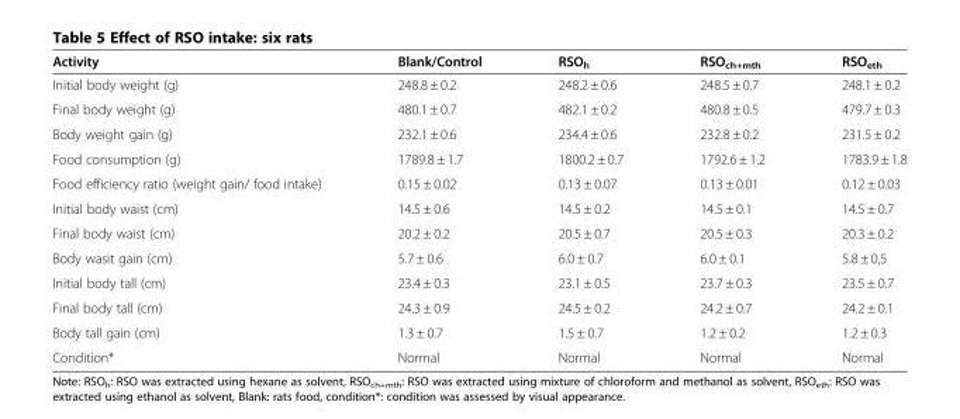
<table><thead><tr><td>Activity</td><td>Blank/Control</td><td>RSO<sub>h</sub></td><td>RSO<sub>ch+mth</sub></td><td>RSO<sub>eth</sub></td></tr></thead><tbody><tr><td>Initial body weight (g)</td><td>248.8 ± 0.2</td><td>248.2 ± 0.6</td><td>248.5 ± 0.7</td><td>248.1 ± 0.2</td></tr><tr><td>Final body weight (g)</td><td>480.1 ± 0.7</td><td>482.1 ± 0.2</td><td>480.8 ± 0.5</td><td>479.7 ± 0.3</td></tr><tr><td>Body weight gain (g)</td><td>232.1 ± 0.6</td><td>234.4 ± 0.6</td><td>232.8 ± 0.2</td><td>231.5 ± 0.2</td></tr><tr><td>Food consumption (g)</td><td>1789.8 ± 1.7</td><td>1800.2 ± 0.7</td><td>1792.6 ± 1.2</td><td>1783.9 ± 1.8</td></tr><tr><td>Food efficiency ratio (weight gain/ food intake)</td><td>0.15 ± 0.02</td><td>0.13 ± 0.07</td><td>0.13 ± 0.01</td><td>0.12 ± 0.03</td></tr><tr><td>Initial body waist (cm)</td><td>14.5 ± 0.6</td><td>14.5 ± 0.2</td><td>14.5 ± 0.1</td><td>14.5 ± 0.7</td></tr><tr><td>Final body waist (cm)</td><td>20.2 ± 0.2</td><td>20.5 ± 0.7</td><td>20.5 ± 0.3</td><td>20.3 ± 0.2</td></tr><tr><td>Body wasit gain (cm)</td><td>5.7 ± 0.6</td><td>6.0 ± 0.7</td><td>6.0 ± 0.1</td><td>5.8 ± 0,5</td></tr><tr><td>Initial body tall (cm)</td><td>23.4 ± 0.3</td><td>23.1 ± 0.5</td><td>23.7 ± 0.3</td><td>23.5 ± 0.7</td></tr><tr><td>Final body tall (cm)</td><td>24.3 ± 0.9</td><td>24.5 ± 0.2</td><td>24.2 ± 0.7</td><td>24.2 ± 0.1</td></tr><tr><td>Body tall gain (cm)</td><td>1.3 ± 0.7</td><td>1.5 ± 0.7</td><td>1.2 ± 0.2</td><td>1.2 ± 0.3</td></tr><tr><td>Condition*</td><td>Normal</td><td>Normal</td><td>Normal</td><td>Normal</td></tr></tbody></table>